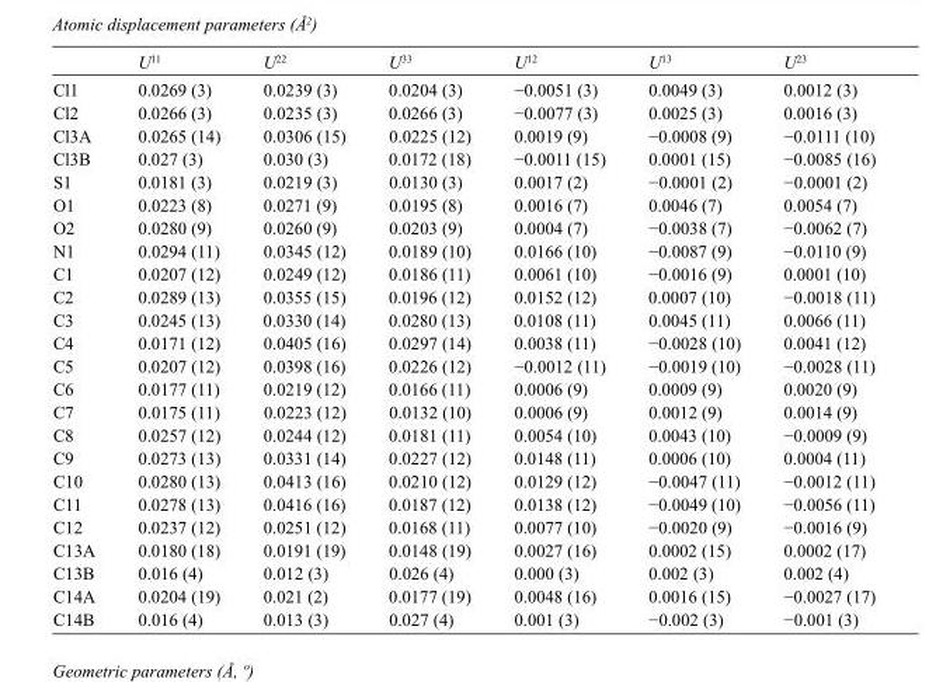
<table><thead><tr><td></td><td>U<sup>11</sup></td><td>U<sup>22</sup></td><td>U<sup>33</sup></td><td>U<sup>12</sup></td><td>U<sup>13</sup></td><td>U<sup>23</sup></td></tr></thead><tbody><tr><td>Cl1</td><td>0.0269 (3)</td><td>0.0239 (3)</td><td>0.0204 (3)</td><td>−0.0051 (3)</td><td>0.0049 (3)</td><td>0.0012 (3)</td></tr><tr><td>Cl2</td><td>0.0266 (3)</td><td>0.0235 (3)</td><td>0.0266 (3)</td><td>−0.0077 (3)</td><td>0.0025 (3)</td><td>0.0016 (3)</td></tr><tr><td>Cl3A</td><td>0.0265 (14)</td><td>0.0306 (15)</td><td>0.0225 (12)</td><td>0.0019 (9)</td><td>−0.0008 (9)</td><td>−0.0111 (10)</td></tr><tr><td>Cl3B</td><td>0.027 (3)</td><td>0.030 (3)</td><td>0.0172 (18)</td><td>−0.0011 (15)</td><td>0.0001 (15)</td><td>−0.0085 (16)</td></tr><tr><td>S1</td><td>0.0181 (3)</td><td>0.0219 (3)</td><td>0.0130 (3)</td><td>0.0017 (2)</td><td>−0.0001 (2)</td><td>−0.0001 (2)</td></tr><tr><td>O1</td><td>0.0223 (8)</td><td>0.0271 (9)</td><td>0.0195 (8)</td><td>0.0016 (7)</td><td>0.0046 (7)</td><td>0.0054 (7)</td></tr><tr><td>O2</td><td>0.0280 (9)</td><td>0.0260 (9)</td><td>0.0203 (9)</td><td>0.0004 (7)</td><td>−0.0038 (7)</td><td>−0.0062 (7)</td></tr><tr><td>N1</td><td>0.0294 (11)</td><td>0.0345 (12)</td><td>0.0189 (10)</td><td>0.0166 (10)</td><td>−0.0087 (9)</td><td>−0.0110 (9)</td></tr><tr><td>C1</td><td>0.0207 (12)</td><td>0.0249 (12)</td><td>0.0186 (11)</td><td>0.0061 (10)</td><td>−0.0016 (9)</td><td>0.0001 (10)</td></tr><tr><td>C2</td><td>0.0289 (13)</td><td>0.0355 (15)</td><td>0.0196 (12)</td><td>0.0152 (12)</td><td>0.0007 (10)</td><td>−0.0018 (11)</td></tr><tr><td>C3</td><td>0.0245 (13)</td><td>0.0330 (14)</td><td>0.0280 (13)</td><td>0.0108 (11)</td><td>0.0045 (11)</td><td>0.0066 (11)</td></tr><tr><td>C4</td><td>0.0171 (12)</td><td>0.0405 (16)</td><td>0.0297 (14)</td><td>0.0038 (11)</td><td>−0.0028 (10)</td><td>0.0041 (12)</td></tr><tr><td>C5</td><td>0.0207 (12)</td><td>0.0398 (16)</td><td>0.0226 (12)</td><td>−0.0012 (11)</td><td>−0.0019 (10)</td><td>−0.0028 (11)</td></tr><tr><td>C6</td><td>0.0177 (11)</td><td>0.0219 (12)</td><td>0.0166 (11)</td><td>0.0006 (9)</td><td>0.0009 (9)</td><td>0.0020 (9)</td></tr><tr><td>C7</td><td>0.0175 (11)</td><td>0.0223 (12)</td><td>0.0132 (10)</td><td>0.0006 (9)</td><td>0.0012 (9)</td><td>0.0014 (9)</td></tr><tr><td>C8</td><td>0.0257 (12)</td><td>0.0244 (12)</td><td>0.0181 (11)</td><td>0.0054 (10)</td><td>0.0043 (10)</td><td>−0.0009 (9)</td></tr><tr><td>C9</td><td>0.0273 (13)</td><td>0.0331 (14)</td><td>0.0227 (12)</td><td>0.0148 (11)</td><td>0.0006 (10)</td><td>0.0004 (11)</td></tr><tr><td>C10</td><td>0.0280 (13)</td><td>0.0413 (16)</td><td>0.0210 (12)</td><td>0.0129 (12)</td><td>−0.0047 (11)</td><td>−0.0012 (11)</td></tr><tr><td>C11</td><td>0.0278 (13)</td><td>0.0416 (16)</td><td>0.0187 (12)</td><td>0.0138 (12)</td><td>−0.0049 (10)</td><td>−0.0056 (11)</td></tr><tr><td>C12</td><td>0.0237 (12)</td><td>0.0251 (12)</td><td>0.0168 (11)</td><td>0.0077 (10)</td><td>−0.0020 (9)</td><td>−0.0016 (9)</td></tr><tr><td>C13A</td><td>0.0180 (18)</td><td>0.0191 (19)</td><td>0.0148 (19)</td><td>0.0027 (16)</td><td>0.0002 (15)</td><td>0.0002 (17)</td></tr><tr><td>C13B</td><td>0.016 (4)</td><td>0.012 (3)</td><td>0.026 (4)</td><td>0.000 (3)</td><td>0.002 (3)</td><td>0.002 (4)</td></tr><tr><td>C14A</td><td>0.0204 (19)</td><td>0.021 (2)</td><td>0.0177 (19)</td><td>0.0048 (16)</td><td>0.0016 (15)</td><td>−0.0027 (17)</td></tr><tr><td>C14B</td><td>0.016 (4)</td><td>0.013 (3)</td><td>0.027 (4)</td><td>0.001 (3)</td><td>−0.002 (3)</td><td>−0.001 (3)</td></tr></tbody></table>